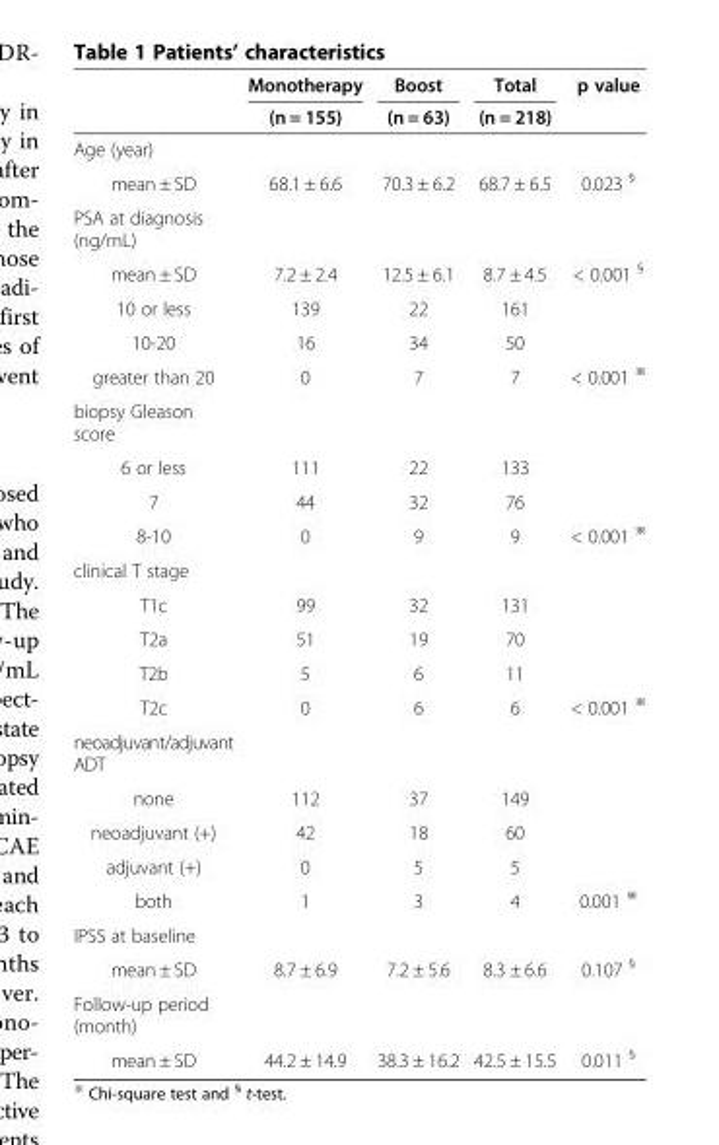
<table><thead><tr><td rowspan="2"></td><td rowspan="2">Monotherapy (n = 155)</td><td rowspan="2">Boost (n = 63)</td><td rowspan="2">Total (n = 218)</td><td rowspan="2">p value</td></tr><tr></tr></thead><tbody><tr><td colspan="5">Age (year)</td></tr><tr><td>mean ± SD</td><td>68.1 ± 6.6</td><td>70.3 ± 6.2</td><td>68.7 ± 6.5</td><td>0.023 <sup>§</sup></td></tr><tr><td colspan="5">PSA at diagnosis (ng/mL)</td></tr><tr><td>mean ± SD</td><td>7.2 ± 2.4</td><td>12.5 ± 6.1</td><td>8.7 ± 4.5</td><td>&lt; 0.001 <sup>§</sup></td></tr><tr><td>10 or less</td><td>139</td><td>22</td><td>161</td><td></td></tr><tr><td>10-20</td><td>16</td><td>34</td><td>50</td><td></td></tr><tr><td>greater than 20</td><td>0</td><td>7</td><td>7</td><td>&lt; 0.001 <sup>※</sup></td></tr><tr><td colspan="5">biopsy Gleason score</td></tr><tr><td>6 or less</td><td>111</td><td>22</td><td>133</td><td></td></tr><tr><td>7</td><td>44</td><td>32</td><td>76</td><td></td></tr><tr><td>8-10</td><td>0</td><td>9</td><td>9</td><td>&lt; 0.001 <sup>※</sup></td></tr><tr><td colspan="5">clinical T stage</td></tr><tr><td>T1c</td><td>99</td><td>32</td><td>131</td><td></td></tr><tr><td>T2a</td><td>51</td><td>19</td><td>70</td><td></td></tr><tr><td>T2b</td><td>5</td><td>6</td><td>11</td><td></td></tr><tr><td>T2c</td><td>0</td><td>6</td><td>6</td><td>&lt; 0.001 <sup>※</sup></td></tr><tr><td colspan="5">neoadjuvant/adjuvant ADT</td></tr><tr><td>none</td><td>112</td><td>37</td><td>149</td><td></td></tr><tr><td>neoadjuvant (+)</td><td>42</td><td>18</td><td>60</td><td></td></tr><tr><td>adjuvant (+)</td><td>0</td><td>5</td><td>5</td><td></td></tr><tr><td>both</td><td>1</td><td>3</td><td>4</td><td>0.001 <sup>※</sup></td></tr><tr><td colspan="5">IPSS at baseline</td></tr><tr><td>mean ± SD</td><td>8.7 ± 6.9</td><td>7.2 ± 5.6</td><td>8.3 ± 6.6</td><td>0.107 <sup>§</sup></td></tr><tr><td colspan="5">Follow-up period (month)</td></tr><tr><td>mean ± SD</td><td>44.2 ± 14.9</td><td>38.3 ± 16.2</td><td>42.5 ± 15.5</td><td>0.011 <sup>§</sup></td></tr></tbody></table>